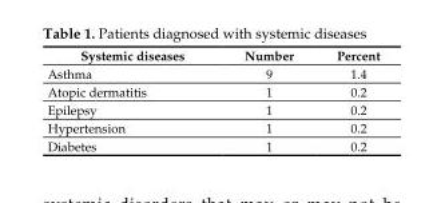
<table><thead><tr><td>Systemic diseases</td><td>Number</td><td>Percent</td></tr></thead><tbody><tr><td>Asthma</td><td>9</td><td>1.4</td></tr><tr><td>Atopic dermatitis</td><td>1</td><td>0.2</td></tr><tr><td>Epilepsy</td><td>1</td><td>0.2</td></tr><tr><td>Hypertension</td><td>1</td><td>0.2</td></tr><tr><td>Diabetes</td><td>1</td><td>0.2</td></tr></tbody></table>